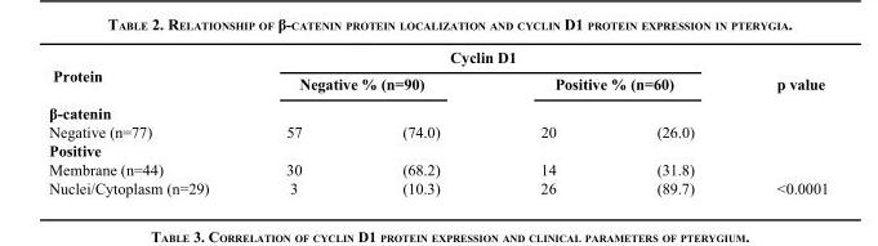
<table><thead><tr><td rowspan="2">Protein</td><td colspan="4">Cyclin D1</td><td rowspan="2">p value</td></tr><tr><td colspan="2">Negative % (n=90)</td><td colspan="2">Positive % (n=60)</td></tr><tr><td colspan="6">β-catenin</td></tr><tr><td>Negative (n=77)</td><td>57</td><td>(74.0)</td><td>20</td><td>(26.0)</td><td></td></tr></thead><tbody><tr><td colspan="6">Positive</td></tr><tr><td>Membrane (n=44)</td><td>30</td><td>(68.2)</td><td>14</td><td>(31.8)</td><td></td></tr><tr><td>Nuclei/Cytoplasm (n=29)</td><td>3</td><td>(10.3)</td><td>26</td><td>(89.7)</td><td>&lt;0.0001</td></tr></tbody></table>